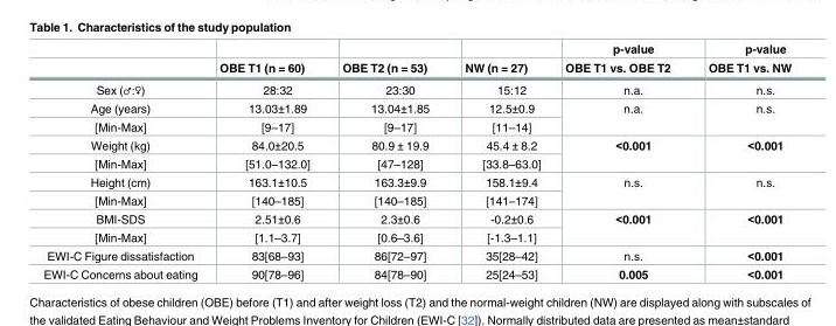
<table><thead><tr><td rowspan="2"></td><td rowspan="2">OBE T1 (n = 60)</td><td rowspan="2">OBE T2 (n = 53)</td><td rowspan="2">NW (n = 27)</td><td rowspan="2">p-value OBE T1 vs. OBE T2</td><td rowspan="2">p-value OBE T1 vs. NW</td></tr><tr></tr></thead><tbody><tr><td>Sex (♂:♀)</td><td>28:32</td><td>23:30</td><td>15:12</td><td>n.a.</td><td>n.s.</td></tr><tr><td>Age (years)</td><td>13.03±1.89</td><td>13.04±1.85</td><td>12.5±0.9</td><td rowspan="2">n.a.</td><td rowspan="2">n.s.</td></tr><tr><td>[Min-Max]</td><td>[9–17]</td><td>[9–17]</td><td>[11–14]</td></tr><tr><td>Weight (kg)</td><td>84.0±20.5</td><td>80.9 ± 19.9</td><td>45.4 ± 8.2</td><td rowspan="2">&lt;0.001</td><td rowspan="2">&lt;0.001</td></tr><tr><td>[Min-Max]</td><td>[51.0–132.0]</td><td>[47–128]</td><td>[33.8–63.0]</td></tr><tr><td>Height (cm)</td><td>163.1±10.5</td><td>163.3±9.9</td><td>158.1±9.4</td><td rowspan="2">n.s.</td><td rowspan="2">n.s.</td></tr><tr><td>[Min-Max]</td><td>[140–185]</td><td>[140–185]</td><td>[141–174]</td></tr><tr><td>BMI-SDS</td><td>2.51±0.6</td><td>2.3±0.6</td><td>-0.2±0.6</td><td rowspan="2">&lt;0.001</td><td rowspan="2">&lt;0.001</td></tr><tr><td>[Min-Max]</td><td>[1.1–3.7]</td><td>[0.6–3.6]</td><td>[-1.3–1.1]</td></tr><tr><td>EWI-C Figure dissatisfaction</td><td>83[68–93]</td><td>86[72–97]</td><td>35[28–42]</td><td>n.s.</td><td>&lt;0.001</td></tr><tr><td>EWI-C Concerns about eating</td><td>90[78–96]</td><td>84[78–90]</td><td>25[24–53]</td><td>0.005</td><td>&lt;0.001</td></tr></tbody></table>